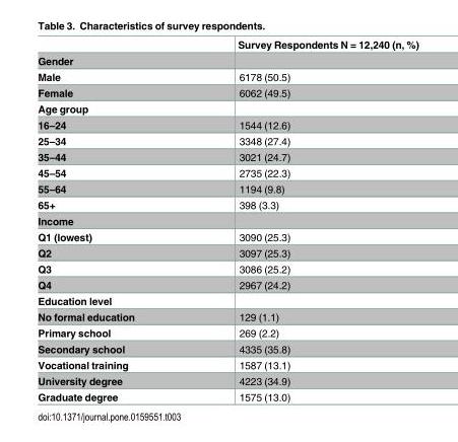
<table><thead><tr><td></td><td>Survey Respondents N = 12,240 (n, %)</td></tr></thead><tbody><tr><td colspan="2">Gender</td></tr><tr><td>Male</td><td>6178 (50.5)</td></tr><tr><td>Female</td><td>6062 (49.5)</td></tr><tr><td colspan="2">Age group</td></tr><tr><td>16–24</td><td>1544 (12.6)</td></tr><tr><td>25–34</td><td>3348 (27.4)</td></tr><tr><td>35–44</td><td>3021 (24.7)</td></tr><tr><td>45–54</td><td>2735 (22.3)</td></tr><tr><td>55–64</td><td>1194 (9.8)</td></tr><tr><td>65+</td><td>398 (3.3)</td></tr><tr><td colspan="2">Income</td></tr><tr><td>Q1 (lowest)</td><td>3090 (25.3)</td></tr><tr><td>Q2</td><td>3097 (25.3)</td></tr><tr><td>Q3</td><td>3086 (25.2)</td></tr><tr><td>Q4</td><td>2967 (24.2)</td></tr><tr><td colspan="2">Education level</td></tr><tr><td>No formal education</td><td>129 (1.1)</td></tr><tr><td>Primary school</td><td>269 (2.2)</td></tr><tr><td>Secondary school</td><td>4335 (35.8)</td></tr><tr><td>Vocational training</td><td>1587 (13.1)</td></tr><tr><td>University degree</td><td>4223 (34.9)</td></tr><tr><td>Graduate degree</td><td>1575 (13.0)</td></tr></tbody></table>